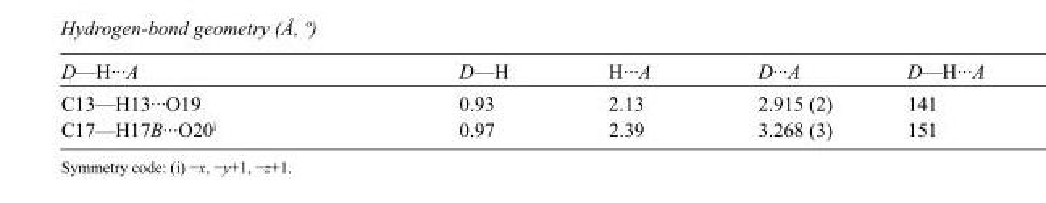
<table><tbody><tr><td>D—H···A</td><td>D—H</td><td>H···A</td><td>D···A</td><td>D—H···A</td></tr><tr><td>C13—H13···O19</td><td>0.93</td><td>2.13</td><td>2.915 (2)</td><td>141</td></tr><tr><td>C17—H17B···O20<sup>i</sup></td><td>0.97</td><td>2.39</td><td>3.268 (3)</td><td>151</td></tr></tbody></table>